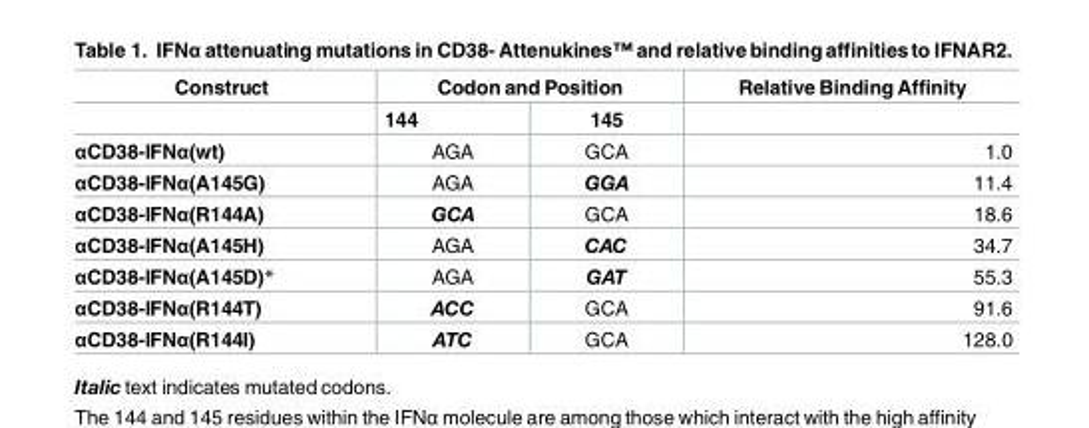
<table><thead><tr><td rowspan="2">Construct</td><td colspan="2">Codon and Position</td><td rowspan="2">Relative Binding Affinity</td></tr><tr><td>144</td><td>145</td></tr></thead><tbody><tr><td>αCD38-IFNα(wt)</td><td>AGA</td><td>GCA</td><td>1.0</td></tr><tr><td>αCD38-IFNα(A145G)</td><td>AGA</td><td>GGA</td><td>11.4</td></tr><tr><td>αCD38-IFNα(R144A)</td><td>GCA</td><td>GCA</td><td>18.6</td></tr><tr><td>αCD38-IFNα(A145H)</td><td>AGA</td><td>CAC</td><td>34.7</td></tr><tr><td>αCD38-IFNα(A145D)*</td><td>AGA</td><td>GAT</td><td>55.3</td></tr><tr><td>αCD38-IFNα(R144T)</td><td>ACC</td><td>GCA</td><td>91.6</td></tr><tr><td>αCD38-IFNα(R144I)</td><td>ATC</td><td>GCA</td><td>128.0</td></tr></tbody></table>